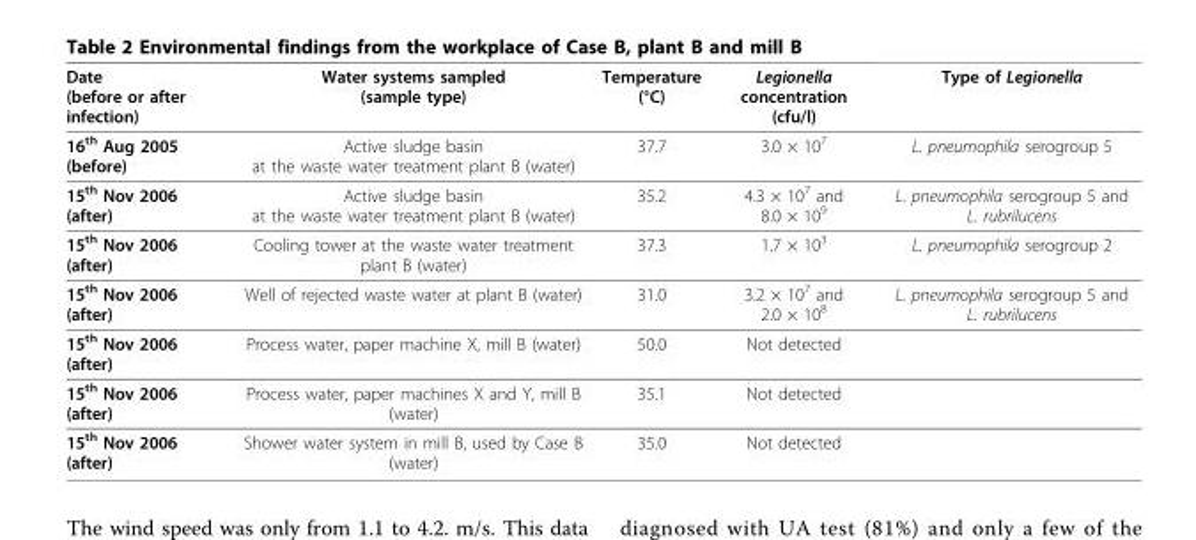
<table><thead><tr><td>Date (before or after infection)</td><td>Water systems sampled (sample type)</td><td>Temperature (°C)</td><td>Legionella concentration (cfu/l)</td><td>Type of Legionella</td></tr></thead><tbody><tr><td>16<sup>th</sup> Aug 2005 (before)</td><td>Active sludge basin at the waste water treatment plant B (water)</td><td>37.7</td><td>3.0 × 10<sup>7</sup></td><td>L. pneumophila serogroup 5</td></tr><tr><td>15<sup>th</sup> Nov 2006 (after)</td><td>Active sludge basin at the waste water treatment plant B (water)</td><td>35.2</td><td>4.3 × 10<sup>7</sup> and 8.0 × 10<sup>9</sup></td><td>L. pneumophila serogroup 5 and L. rubrilucens</td></tr><tr><td>15<sup>th</sup> Nov 2006 (after)</td><td>Cooling tower at the waste water treatment plant B (water)</td><td>37.3</td><td>1.7 × 10<sup>3</sup></td><td>L. pneumophila serogroup 2</td></tr><tr><td>15<sup>th</sup> Nov 2006 (after)</td><td>Well of rejected waste water at plant B (water)</td><td>31.0</td><td>3.2 × 10<sup>7</sup> and 2.0 × 10<sup>8</sup></td><td>L. pneumophila serogroup 5 and L. rubrilucens</td></tr><tr><td>15<sup>th</sup> Nov 2006 (after)</td><td>Process water, paper machine X, mill B (water)</td><td>50.0</td><td>Not detected</td><td></td></tr><tr><td>15<sup>th</sup> Nov 2006 (after)</td><td>Process water, paper machines X and Y, mill B (water)</td><td>35.1</td><td>Not detected</td><td></td></tr><tr><td>15<sup>th</sup> Nov 2006 (after)</td><td>Shower water system in mill B, used by Case B (water)</td><td>35.0</td><td>Not detected</td><td></td></tr></tbody></table>